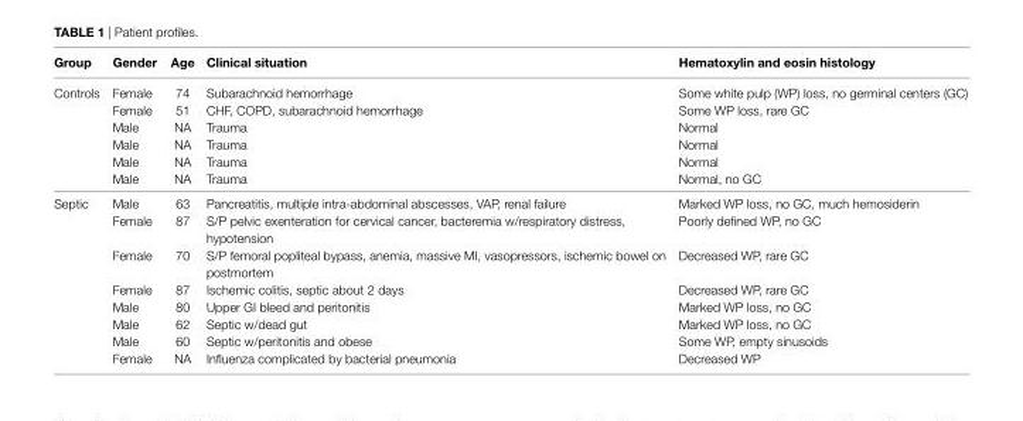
<table><thead><tr><td>group</td><td>gender</td><td>age</td><td>clinical situation</td><td>hematoxylin and eosin histology</td></tr></thead><tbody><tr><td rowspan="6">Controls</td><td>Female</td><td>74</td><td>Subarachnoid hemorrhage</td><td>Some white pulp (WP) loss, no germinal centers (GC)</td></tr><tr><td>Female</td><td>51</td><td>CHF, COPD, subarachnoid hemorrhage</td><td>Some WP loss, rare GC</td></tr><tr><td>Male</td><td>NA</td><td>Trauma</td><td>Normal</td></tr><tr><td>Male</td><td>NA</td><td>Trauma</td><td>Normal</td></tr><tr><td>Male</td><td>NA</td><td>Trauma</td><td>Normal</td></tr><tr><td>Male</td><td>NA</td><td>Trauma</td><td>Normal, no GC</td></tr><tr><td rowspan="8">Septic</td><td>Male</td><td>63</td><td>Pancreatitis, multiple intra-abdominal abscesses, VAP, renal failure</td><td>Marked WP loss, no GC, much hemosiderin</td></tr><tr><td>Female</td><td>87</td><td>S/P pelvic exenteration for cervical cancer, bacteremia w/respiratory distress, hypotension</td><td>Poorly defined WP, no GC</td></tr><tr><td>Female</td><td>70</td><td>S/P femoral popliteal bypass, anemia, massive MI, vasopressors, ischemic bowel on postmortem</td><td>Decreased WP, rare GC</td></tr><tr><td>Female</td><td>87</td><td>Ischemic colitis, septic about 2 days</td><td>Decreased WP, rare GC</td></tr><tr><td>Male</td><td>80</td><td>Upper GI bleed and peritonitis</td><td>Marked WP loss, no GC</td></tr><tr><td>Male</td><td>62</td><td>Septic w/dead gut</td><td>Marked WP loss, no GC</td></tr><tr><td>Male</td><td>60</td><td>Septic w/peritonitis and obese</td><td>Some WP, empty sinusoids</td></tr><tr><td>Female</td><td>NA</td><td>Influenza complicated by bacterial pneumonia</td><td>Decreased WP</td></tr></tbody></table>